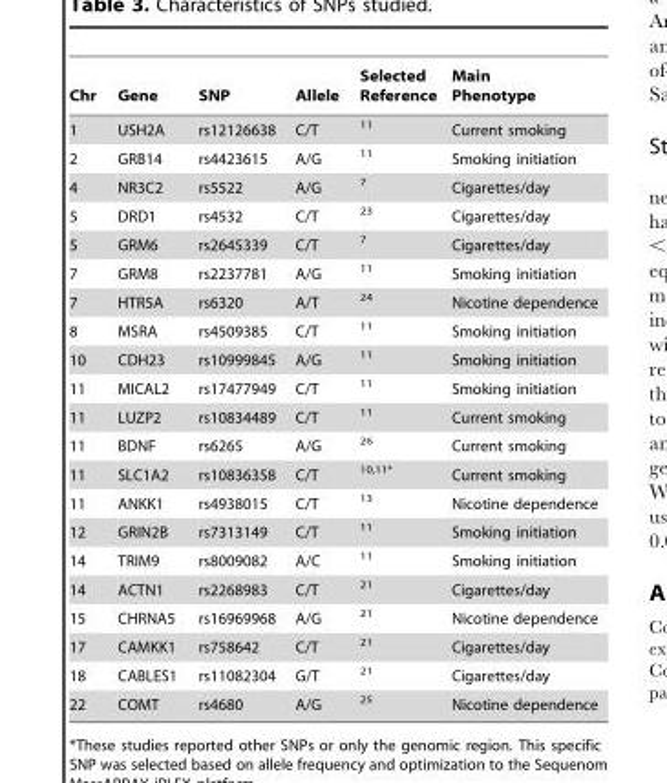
<table><thead><tr><td>Chr</td><td>Gene</td><td>SNP</td><td>Allele</td><td>Selected Reference</td><td>Main Phenotype</td></tr></thead><tbody><tr><td>1</td><td>USH2A</td><td>rs12126638</td><td>C/T</td><td><sup>11</sup></td><td>Current smoking</td></tr><tr><td>2</td><td>GRB14</td><td>rs4423615</td><td>A/G</td><td><sup>11</sup></td><td>Smoking initiation</td></tr><tr><td>4</td><td>NR3C2</td><td>rs5522</td><td>A/G</td><td><sup>7</sup></td><td>Cigarettes/day</td></tr><tr><td>5</td><td>DRD1</td><td>rs4532</td><td>C/T</td><td><sup>23</sup></td><td>Cigarettes/day</td></tr><tr><td>5</td><td>GRM6</td><td>rs2645339</td><td>C/T</td><td><sup>7</sup></td><td>Cigarettes/day</td></tr><tr><td>7</td><td>GRM8</td><td>rs2237781</td><td>A/G</td><td><sup>11</sup></td><td>Smoking initiation</td></tr><tr><td>7</td><td>HTR5A</td><td>rs6320</td><td>A/T</td><td><sup>24</sup></td><td>Nicotine dependence</td></tr><tr><td>8</td><td>MSRA</td><td>rs4509385</td><td>C/T</td><td><sup>11</sup></td><td>Smoking initiation</td></tr><tr><td>10</td><td>CDH23</td><td>rs10999845</td><td>A/G</td><td><sup>11</sup></td><td>Smoking initiation</td></tr><tr><td>11</td><td>MICAL2</td><td>rs17477949</td><td>C/T</td><td><sup>11</sup></td><td>Smoking initiation</td></tr><tr><td>11</td><td>LUZP2</td><td>rs10834489</td><td>C/T</td><td><sup>11</sup></td><td>Current smoking</td></tr><tr><td>11</td><td>BDNF</td><td>rs6265</td><td>A/G</td><td><sup>26</sup></td><td>Current smoking</td></tr><tr><td>11</td><td>SLC1A2</td><td>rs10836358</td><td>C/T</td><td><sup>10,11</sup>*</td><td>Current smoking</td></tr><tr><td>11</td><td>ANKK1</td><td>rs4938015</td><td>C/T</td><td><sup>13</sup></td><td>Nicotine dependence</td></tr><tr><td>12</td><td>GRIN2B</td><td>rs7313149</td><td>C/T</td><td><sup>11</sup></td><td>Smoking initiation</td></tr><tr><td>14</td><td>TRIM9</td><td>rs8009082</td><td>A/C</td><td><sup>11</sup></td><td>Smoking initiation</td></tr><tr><td>14</td><td>ACTN1</td><td>rs2268983</td><td>C/T</td><td><sup>21</sup></td><td>Cigarettes/day</td></tr><tr><td>15</td><td>CHRNA5</td><td>rs16969968</td><td>A/G</td><td><sup>21</sup></td><td>Nicotine dependence</td></tr><tr><td>17</td><td>CAMKK1</td><td>rs758642</td><td>C/T</td><td><sup>21</sup></td><td>Cigarettes/day</td></tr><tr><td>18</td><td>CABLES1</td><td>rs11082304</td><td>G/T</td><td><sup>21</sup></td><td>Cigarettes/day</td></tr><tr><td>22</td><td>COMT</td><td>rs4680</td><td>A/G</td><td><sup>25</sup></td><td>Nicotine dependence</td></tr></tbody></table>